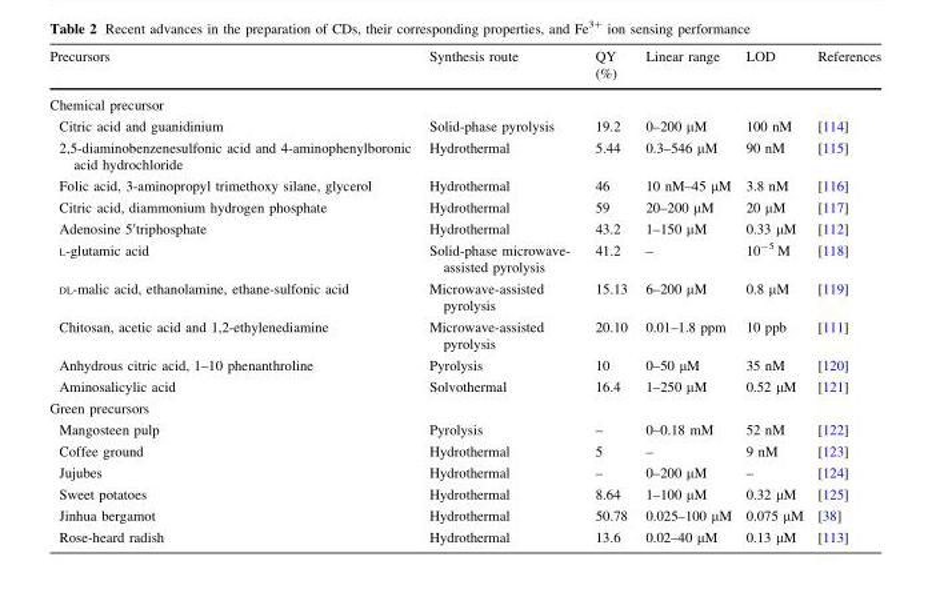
<table><thead><tr><td>Precursors</td><td>Synthesis route</td><td>QY (%)</td><td>Linear range</td><td>LOD</td><td>References</td></tr></thead><tbody><tr><td colspan="6">Chemical precursor</td></tr><tr><td>Citric acid and guanidinium</td><td>Solid-phase pyrolysis</td><td>19.2</td><td>0–200 µM</td><td>100 nM</td><td>[114]</td></tr><tr><td>2,5-diaminobenzenesulfonic acid and 4-aminophenylboronic acid hydrochloride</td><td>Hydrothermal</td><td>5.44</td><td>0.3–546 µM</td><td>90 nM</td><td>[115]</td></tr><tr><td>Folic acid, 3-aminopropyl trimethoxy silane, glycerol</td><td>Hydrothermal</td><td>46</td><td>10 nM–45 µM</td><td>3.8 nM</td><td>[116]</td></tr><tr><td>Citric acid, diammonium hydrogen phosphate</td><td>Hydrothermal</td><td>59</td><td>20–200 µM</td><td>20 µM</td><td>[117]</td></tr><tr><td>Adenosine 5′triphosphate</td><td>Hydrothermal</td><td>43.2</td><td>1–150 µM</td><td>0.33 µM</td><td>[112]</td></tr><tr><td>L-glutamic acid</td><td>Solid-phase microwave- assisted pyrolysis</td><td>41.2</td><td>–</td><td>10<sup>-5</sup> M</td><td>[118]</td></tr><tr><td>DL-malic acid, ethanolamine, ethane-sulfonic acid</td><td>Microwave-assisted pyrolysis</td><td>15.13</td><td>6–200 µM</td><td>0.8 µM</td><td>[119]</td></tr><tr><td>Chitosan, acetic acid and 1,2-ethylenediamine</td><td>Microwave-assisted pyrolysis</td><td>20.10</td><td>0.01–1.8 ppm</td><td>10 ppb</td><td>[111]</td></tr><tr><td>Anhydrous citric acid, 1–10 phenanthroline</td><td>Pyrolysis</td><td>10</td><td>0–50 µM</td><td>35 nM</td><td>[120]</td></tr><tr><td>Aminosalicylic acid</td><td>Solvothermal</td><td>16.4</td><td>1–250 µM</td><td>0.52 µM</td><td>[121]</td></tr><tr><td colspan="6">Green precursors</td></tr><tr><td>Mangosteen pulp</td><td>Pyrolysis</td><td>–</td><td>0–0.18 mM</td><td>52 nM</td><td>[122]</td></tr><tr><td>Coffee ground</td><td>Hydrothermal</td><td>5</td><td>–</td><td>9 nM</td><td>[123]</td></tr><tr><td>Jujubes</td><td>Hydrothermal</td><td>–</td><td>0–200 µM</td><td>–</td><td>[124]</td></tr><tr><td>Sweet potatoes</td><td>Hydrothermal</td><td>8.64</td><td>1–100 µM</td><td>0.32 µM</td><td>[125]</td></tr><tr><td>Jinhua bergamot</td><td>Hydrothermal</td><td>50.78</td><td>0.025–100 µM</td><td>0.075 µM</td><td>[38]</td></tr><tr><td>Rose-heard radish</td><td>Hydrothermal</td><td>13.6</td><td>0.02–40 µM</td><td>0.13 µM</td><td>[113]</td></tr></tbody></table>